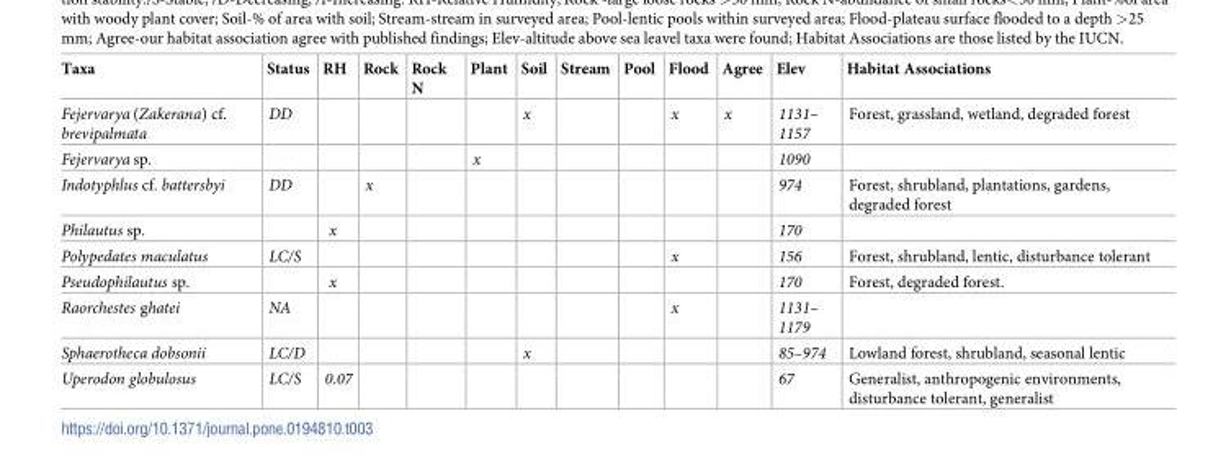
<table><thead><tr><td>Taxa</td><td>Status</td><td>RH</td><td>Rock</td><td>Rock N</td><td>Plant</td><td>Soil</td><td>Stream</td><td>Pool</td><td>Flood</td><td>Agree</td><td>Elev</td><td>Habitat Associations</td></tr></thead><tbody><tr><td>Fejervarya (Zakerana) cf. brevipalmata</td><td>DD</td><td></td><td></td><td></td><td></td><td>x</td><td></td><td></td><td>x</td><td>x</td><td>1131– 1157</td><td>Forest, grassland, wetland, degraded forest</td></tr><tr><td>Fejervarya sp.</td><td></td><td></td><td></td><td></td><td>x</td><td></td><td></td><td></td><td></td><td></td><td>1090</td><td></td></tr><tr><td>Indotyphlus cf. battersbyi</td><td>DD</td><td></td><td>x</td><td></td><td></td><td></td><td></td><td></td><td></td><td></td><td>974</td><td>Forest, shrubland, plantations, gardens, degraded forest</td></tr><tr><td>Philautus sp.</td><td></td><td>x</td><td></td><td></td><td></td><td></td><td></td><td></td><td></td><td></td><td>170</td><td></td></tr><tr><td>Polypedates maculatus</td><td>LC/S</td><td></td><td></td><td></td><td></td><td></td><td></td><td></td><td>x</td><td></td><td>156</td><td>Forest, shrubland, lentic, disturbance tolerant</td></tr><tr><td>Pseudophilautus sp.</td><td></td><td>x</td><td></td><td></td><td></td><td></td><td></td><td></td><td></td><td></td><td>170</td><td>Forest, degraded forest.</td></tr><tr><td>Raorchestes ghatei</td><td>NA</td><td></td><td></td><td></td><td></td><td></td><td></td><td></td><td>x</td><td></td><td>1131– 1179</td><td></td></tr><tr><td>Sphaerotheca dobsonii</td><td>LC/D</td><td></td><td></td><td></td><td></td><td>x</td><td></td><td></td><td></td><td></td><td>85–974</td><td>Lowland forest, shrubland, seasonal lentic</td></tr><tr><td>Uperodon globulosus</td><td>LC/S</td><td>0.07</td><td></td><td></td><td></td><td></td><td></td><td></td><td></td><td></td><td>67</td><td>Generalist, anthropogenic environments, disturbance tolerant, generalist</td></tr></tbody></table>